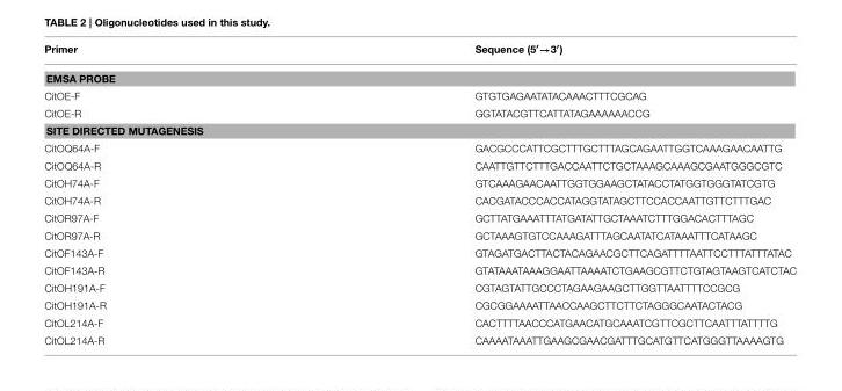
<table><thead><tr><td>Primer</td><td>Sequence (5′→3′)</td></tr></thead><tbody><tr><td colspan="2">EMSA PROBE</td></tr><tr><td>CitOE-F</td><td>GTGTGAGAATATACAAACTTTCGCAG</td></tr><tr><td>CitOE-R</td><td>GGTATACGTTCATTATAGAAAAAACCG</td></tr><tr><td colspan="2">SITE DIRECTED MUTAGENESIS</td></tr><tr><td>CitOQ64A-F</td><td>GACGCCCATTCGCTTTGCTTTAGCAGAATTGGTCAAAGAACAATTG</td></tr><tr><td>CitOQ64A-R</td><td>CAATTGTTCTTTGACCAATTCTGCTAAAGCAAAGCGAATGGGCGTC</td></tr><tr><td>CitOH74A-F</td><td>GTCAAAGAACAATTGGTGGAAGCTATACCTATGGTGGGTATCGTG</td></tr><tr><td>CitOH74A-R</td><td>CACGATACCCACCATAGGTATAGCTTCCACCAATTGTTCTTTGAC</td></tr><tr><td>CitOR97A-F</td><td>GCTTATGAAATTTATGATATTGCTAAATCTTTGGACACTTTAGC</td></tr><tr><td>CitOR97A-R</td><td>GCTAAAGTGTCCAAAGATTTAGCAATATCATAAATTTCATAAGC</td></tr><tr><td>CitOF143A-F</td><td>GTAGATGACTTACTACAGAACGCTTCAGATTTTAATTCCTTTATTTATAC</td></tr><tr><td>CitOF143A-R</td><td>GTATAAATAAAGGAATTAAAATCTGAAGCGTTCTGTAGTAAGTCATCTAC</td></tr><tr><td>CitOH191A-F</td><td>CGTAGTATTGCCCTAGAAGAAGCTTGGTTAATTTTCCGCG</td></tr><tr><td>CitOH191A-R</td><td>CGCGGAAAATTAACCAAGCTTCTTCTAGGGCAATACTACG</td></tr><tr><td>CitOL214A-F</td><td>CACTTTTAACCCATGAACATGCAAATCGTTCGCTTCAATTTATTTTG</td></tr><tr><td>CitOL214A-R</td><td>CAAAATAAATTGAAGCGAACGATTTGCATGTTCATGGGTTAAAAGTG</td></tr></tbody></table>